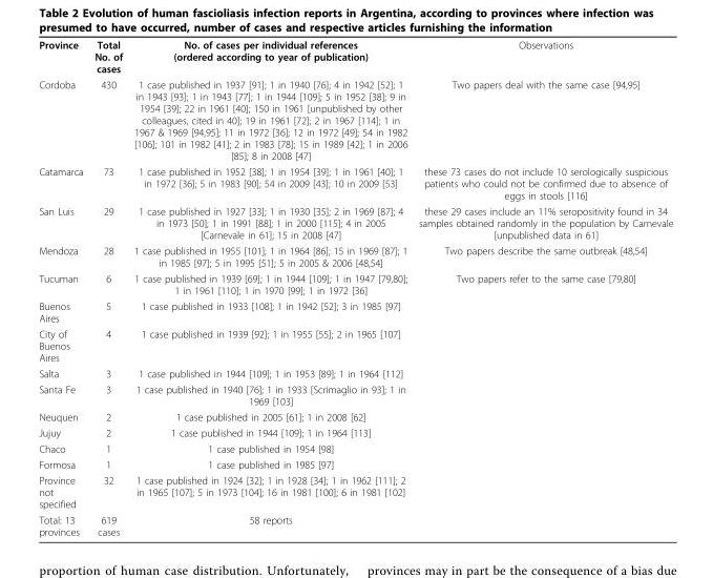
<table><tbody><tr><td>Province</td><td>Total No. of cases</td><td>No. of cases per individual references (ordered according to year of publication)</td><td>Observations</td></tr><tr><td>Cordoba</td><td>430</td><td>1 case published in 1937 [91]; 1 in 1940 [76]; 4 in 1942 [52]; 1 in 1943 [93]; 1 in 1943 [77]; 1 in 1944 [109]; 5 in 1952 [38]; 9 in 1954 [39]; 22 in 1961 [40]; 150 in 1961 [unpublished by other colleagues, cited in 40]; 19 in 1961 [72]; 2 in 1967 [114]; 1 in 1967 &amp; 1969 [94,95]; 11 in 1972 [36]; 12 in 1972 [49]; 54 in 1982 [106]; 101 in 1982 [41]; 2 in 1983 [78]; 15 in 1989 [42]; 1 in 2006 [85]; 8 in 2008 [47]</td><td>Two papers deal with the same case [94,95]</td></tr><tr><td>Catamarca</td><td>73</td><td>1 case published in 1952 [38]; 1 in 1954 [39]; 1 in 1961 [40]; 1 in 1972 [36]; 5 in 1983 [90]; 54 in 2009 [43]; 10 in 2009 [53]</td><td>these 73 cases do not include 10 serologically suspicious patients who could not be confirmed due to absence of eggs in stools [116]</td></tr><tr><td>San Luis</td><td>29</td><td>1 case published in 1927 [33]; 1 in 1930 [35]; 2 in 1969 [87]; 4 in 1973 [50]; 1 in 1991 [88]; 1 in 2000 [115]; 4 in 2005 [Carnevale in 61]; 15 in 2008 [47]</td><td>these 29 cases include an 11% seropositivity found in 34 samples obtained randomly in the population by Carnevale [unpublished data in 61]</td></tr><tr><td>Mendoza</td><td>28</td><td>1 case published in 1955 [101]; 1 in 1964 [86]; 15 in 1969 [87]; 1 in 1985 [97]; 5 in 1995 [51]; 5 in 2005 &amp; 2006 [48,54]</td><td>Two papers describe the same outbreak [48,54]</td></tr><tr><td>Tucuman</td><td>6</td><td>1 case published in 1939 [69]; 1 in 1944 [109]; 1 in 1947 [79,80]; 1 in 1961 [110]; 1 in 1970 [99]; 1 in 1972 [36]</td><td>Two papers refer to the same case [79,80]</td></tr><tr><td>Buenos Aires</td><td>5</td><td>1 case published in 1933 [108]; 1 in 1942 [52]; 3 in 1985 [97]</td><td></td></tr><tr><td>City of Buenos Aires</td><td>4</td><td>1 case published in 1939 [92]; 1 in 1955 [55]; 2 in 1965 [107]</td><td></td></tr><tr><td>Salta</td><td>3</td><td>1 case published in 1944 [109]; 1 in 1953 [89]; 1 in 1964 [112]</td><td></td></tr><tr><td>Santa Fe</td><td>3</td><td>1 case published in 1940 [76]; 1 in 1933 [Scrimaglio in 93]; 1 in 1969 [103]</td><td></td></tr><tr><td>Neuquen</td><td>2</td><td>1 case published in 2005 [61]; 1 in 2008 [62]</td><td></td></tr><tr><td>Jujuy</td><td>2</td><td>1 case published in 1944 [109]; 1 in 1964 [113]</td><td></td></tr><tr><td>Chaco</td><td>1</td><td>1 case published in 1954 [98]</td><td></td></tr><tr><td>Formosa</td><td>1</td><td>1 case published in 1985 [97]</td><td></td></tr><tr><td>Province not specified</td><td>32</td><td>1 case published in 1924 [32]; 1 in 1928 [34]; 1 in 1962 [111]; 2 in 1965 [107]; 5 in 1973 [104]; 16 in 1981 [100]; 6 in 1981 [102]</td><td></td></tr><tr><td>Total: 13 provinces</td><td>619 cases</td><td>58 reports</td><td></td></tr></tbody></table>